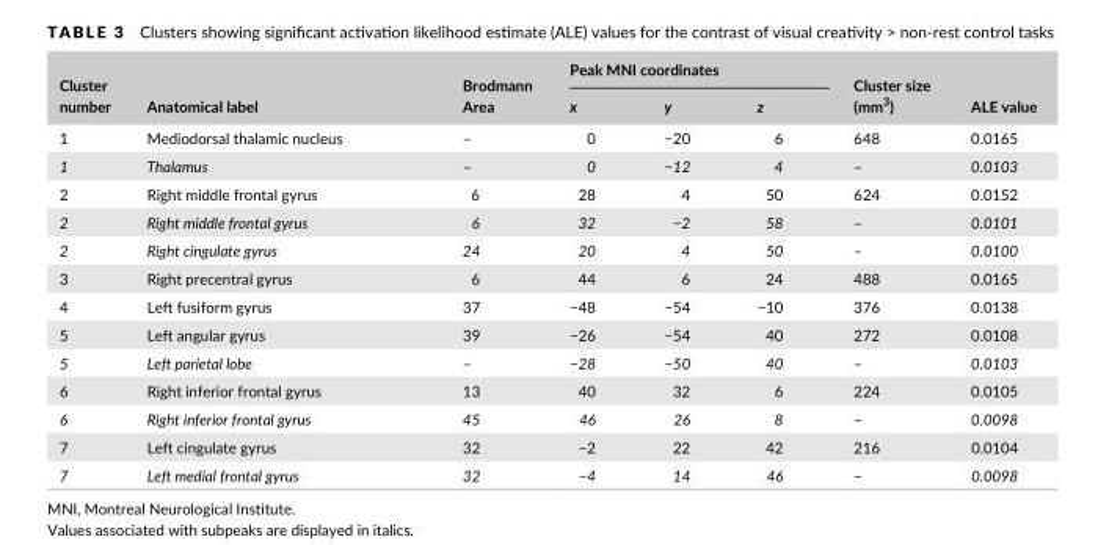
<table><thead><tr><td rowspan="2">Cluster number</td><td rowspan="2">Anatomical label</td><td rowspan="2">Brodmann Area</td><td colspan="3">Peak MNI coordinates</td><td rowspan="2">Cluster size (mm<sup>3</sup>)</td><td rowspan="2">ALE value</td></tr><tr><td>x</td><td>y</td><td>z</td></tr></thead><tbody><tr><td>1</td><td>Mediodorsal thalamic nucleus</td><td>–</td><td>0</td><td>−20</td><td>6</td><td>648</td><td>0.0165</td></tr><tr><td>1</td><td>Thalamus</td><td>–</td><td>0</td><td>−12</td><td>4</td><td>–</td><td>0.0103</td></tr><tr><td>2</td><td>Right middle frontal gyrus</td><td>6</td><td>28</td><td>4</td><td>50</td><td>624</td><td>0.0152</td></tr><tr><td>2</td><td>Right middle frontal gyrus</td><td>6</td><td>32</td><td>−2</td><td>58</td><td>–</td><td>0.0101</td></tr><tr><td>2</td><td>Right cingulate gyrus</td><td>24</td><td>20</td><td>4</td><td>50</td><td>–</td><td>0.0100</td></tr><tr><td>3</td><td>Right precentral gyrus</td><td>6</td><td>44</td><td>6</td><td>24</td><td>488</td><td>0.0165</td></tr><tr><td>4</td><td>Left fusiform gyrus</td><td>37</td><td>−48</td><td>−54</td><td>−10</td><td>376</td><td>0.0138</td></tr><tr><td>5</td><td>Left angular gyrus</td><td>39</td><td>−26</td><td>−54</td><td>40</td><td>272</td><td>0.0108</td></tr><tr><td>5</td><td>Left parietal lobe</td><td>–</td><td>−28</td><td>−50</td><td>40</td><td>–</td><td>0.0103</td></tr><tr><td>6</td><td>Right inferior frontal gyrus</td><td>13</td><td>40</td><td>32</td><td>6</td><td>224</td><td>0.0105</td></tr><tr><td>6</td><td>Right inferior frontal gyrus</td><td>45</td><td>46</td><td>26</td><td>8</td><td>–</td><td>0.0098</td></tr><tr><td>7</td><td>Left cingulate gyrus</td><td>32</td><td>−2</td><td>22</td><td>42</td><td>216</td><td>0.0104</td></tr><tr><td>7</td><td>Left medial frontal gyrus</td><td>32</td><td>−4</td><td>14</td><td>46</td><td>–</td><td>0.0098</td></tr></tbody></table>